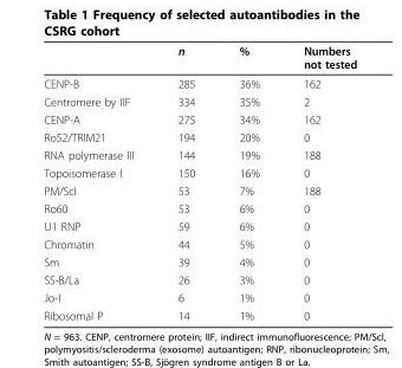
<table><thead><tr><td></td><td>n</td><td>%</td><td>Numbers not tested</td></tr></thead><tbody><tr><td>CENP-B</td><td>285</td><td>36%</td><td>162</td></tr><tr><td>Centromere by IIF</td><td>334</td><td>35%</td><td>2</td></tr><tr><td>CENP-A</td><td>275</td><td>34%</td><td>162</td></tr><tr><td>Ro52/TRIM21</td><td>194</td><td>20%</td><td>0</td></tr><tr><td>RNA polymerase III</td><td>144</td><td>19%</td><td>188</td></tr><tr><td>Topoisomerase I</td><td>150</td><td>16%</td><td>0</td></tr><tr><td>PM/Scl</td><td>53</td><td>7%</td><td>188</td></tr><tr><td>Ro60</td><td>53</td><td>6%</td><td>0</td></tr><tr><td>U1 RNP</td><td>59</td><td>6%</td><td>0</td></tr><tr><td>Chromatin</td><td>44</td><td>5%</td><td>0</td></tr><tr><td>Sm</td><td>39</td><td>4%</td><td>0</td></tr><tr><td>SS-B/La</td><td>26</td><td>3%</td><td>0</td></tr><tr><td>Jo-I</td><td>6</td><td>1%</td><td>0</td></tr><tr><td>Ribosomal P</td><td>14</td><td>1%</td><td>0</td></tr></tbody></table>